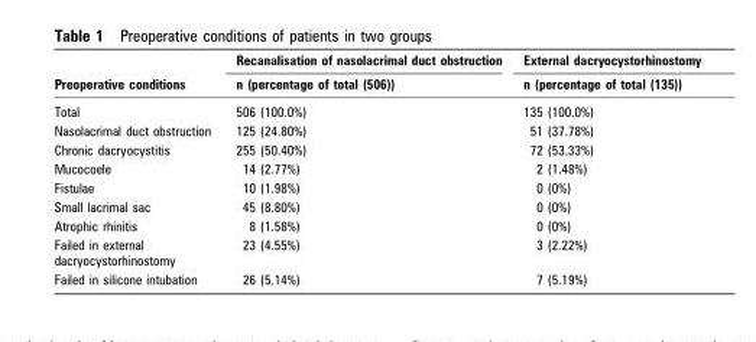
<table><thead><tr><td rowspan="2">Preoperative conditions</td><td rowspan="2">Recanalisation of nasolacrimal duct obstruction n (percentage of total (506))</td><td rowspan="2">External dacryocystorhinostomy n (percentage of total (135))</td></tr><tr></tr></thead><tbody><tr><td>Total</td><td>506 (100.0%)</td><td>135 (100.0%)</td></tr><tr><td>Nasolacrimal duct obstruction</td><td>125 (24.80%)</td><td>51 (37.78%)</td></tr><tr><td>Chronic dacryocystitis</td><td>255 (50.40%)</td><td>72 (53.33%)</td></tr><tr><td>Mucocoele</td><td>14 (2.77%)</td><td>2 (1.48%)</td></tr><tr><td>Fistulae</td><td>10 (1.98%)</td><td>0 (0%)</td></tr><tr><td>Small lacrimal sac</td><td>45 (8.80%)</td><td>0 (0%)</td></tr><tr><td>Atrophic rhinitis</td><td>8 (1.58%)</td><td>0 (0%)</td></tr><tr><td>Failed in external dacryocystorhinostomy</td><td>23 (4.55%)</td><td>3 (2.22%)</td></tr><tr><td>Failed in silicone intubation</td><td>26 (5.14%)</td><td>7 (5.19%)</td></tr></tbody></table>